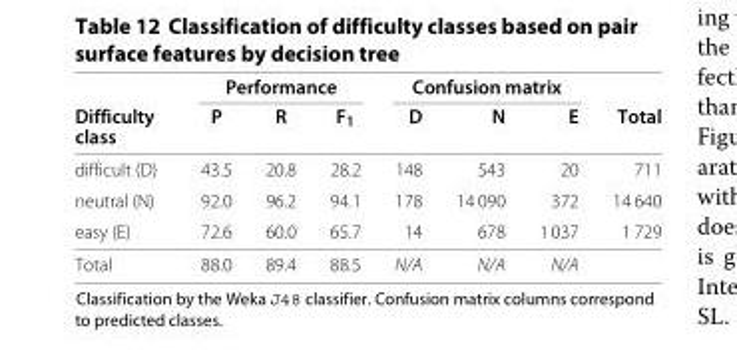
<table><thead><tr><td rowspan="2">Difficulty class</td><td colspan="3">Performance</td><td colspan="3">Confusion matrix</td><td rowspan="2">Total</td></tr><tr><td>P</td><td>R</td><td>F<sub>1</sub></td><td>D</td><td>N</td><td>E</td></tr></thead><tbody><tr><td>difficult (D)</td><td>43.5</td><td>20.8</td><td>28.2</td><td>148</td><td>543</td><td>20</td><td>711</td></tr><tr><td>neutral (N)</td><td>92.0</td><td>96.2</td><td>94.1</td><td>178</td><td>14 090</td><td>372</td><td>14 640</td></tr><tr><td>easy (E)</td><td>72.6</td><td>60.0</td><td>65.7</td><td>14</td><td>678</td><td>1 037</td><td>1 729</td></tr><tr><td>Total</td><td>88.0</td><td>89.4</td><td>88.5</td><td>N/A</td><td>N/A</td><td>N/A</td><td></td></tr></tbody></table>